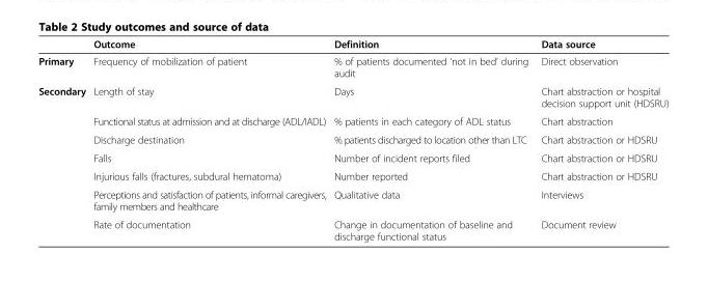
<table><thead><tr><td></td><td>Outcome</td><td>Definition</td><td>Data source</td></tr></thead><tbody><tr><td>Primary</td><td>Frequency of mobilization of patient</td><td>% of patients documented ‘not in bed’ during audit</td><td>Direct observation</td></tr><tr><td rowspan="7">Secondary</td><td>Length of stay</td><td>Days</td><td>Chart abstraction or hospital decision support unit (HDSRU)</td></tr><tr><td>Functional status at admission and at discharge (ADL/IADL)</td><td>% patients in each category of ADL status</td><td>Chart abstraction</td></tr><tr><td>Discharge destination</td><td>% patients discharged to location other than LTC</td><td>Chart abstraction or HDSRU</td></tr><tr><td>Falls</td><td>Number of incident reports filed</td><td>Chart abstraction or HDSRU</td></tr><tr><td>Injurious falls (fractures, subdural hematoma)</td><td>Number reported</td><td>Chart abstraction or HDSRU</td></tr><tr><td>Perceptions and satisfaction of patients, informal caregivers, family members and healthcare</td><td>Qualitative data</td><td>Interviews</td></tr><tr><td>Rate of documentation</td><td>Change in documentation of baseline and discharge functional status</td><td>Document review</td></tr></tbody></table>